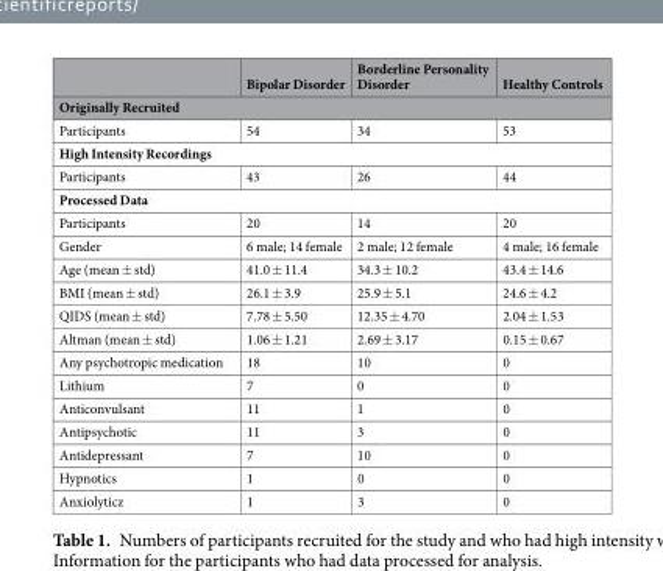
<table><thead><tr><td></td><td>Bipolar Disorder</td><td>Borderline Personality Disorder</td><td>Healthy Controls</td></tr><tr><td colspan="4">Originally Recruited</td></tr></thead><tbody><tr><td>Participants</td><td>54</td><td>34</td><td>53</td></tr><tr><td colspan="4">High Intensity Recordings</td></tr><tr><td>Participants</td><td>43</td><td>26</td><td>44</td></tr><tr><td colspan="4">Processed Data</td></tr><tr><td>Participants</td><td>20</td><td>14</td><td>20</td></tr><tr><td>Gender</td><td>6 male; 14 female</td><td>2 male; 12 female</td><td>4 male; 16 female</td></tr><tr><td>Age (mean ± std)</td><td>41.0 ± 11.4</td><td>34.3 ± 10.2</td><td>43.4 ± 14.6</td></tr><tr><td>BMI (mean ± std)</td><td>26.1 ± 3.9</td><td>25.9 ± 5.1</td><td>24.6 ± 4.2</td></tr><tr><td>QIDS (mean ± std)</td><td>7.78 ± 5.50</td><td>12.35 ± 4.70</td><td>2.04 ± 1.53</td></tr><tr><td>Altman (mean ± std)</td><td>1.06 ± 1.21</td><td>2.69 ± 3.17</td><td>0.15 ± 0.67</td></tr><tr><td>Any psychotropic medication</td><td>18</td><td>10</td><td>0</td></tr><tr><td>Lithium</td><td>7</td><td>0</td><td>0</td></tr><tr><td>Anticonvulsant</td><td>11</td><td>1</td><td>0</td></tr><tr><td>Antipsychotic</td><td>11</td><td>3</td><td>0</td></tr><tr><td>Antidepressant</td><td>7</td><td>10</td><td>0</td></tr><tr><td>Hypnotics</td><td>1</td><td>0</td><td>0</td></tr><tr><td>Anxiolyticz</td><td>1</td><td>3</td><td>0</td></tr></tbody></table>